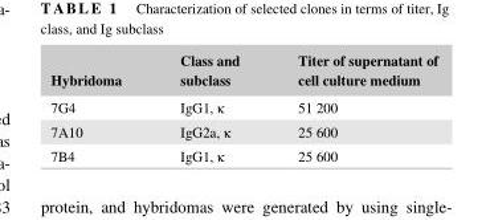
<table><thead><tr><td>Hybridoma</td><td>Class and subclass</td><td>Titer of supernatant of cell culture medium</td></tr></thead><tbody><tr><td>7G4</td><td>IgG1, κ</td><td>51 200</td></tr><tr><td>7A10</td><td>IgG2a, κ</td><td>25 600</td></tr><tr><td>7B4</td><td>IgG1, κ</td><td>25 600</td></tr></tbody></table>